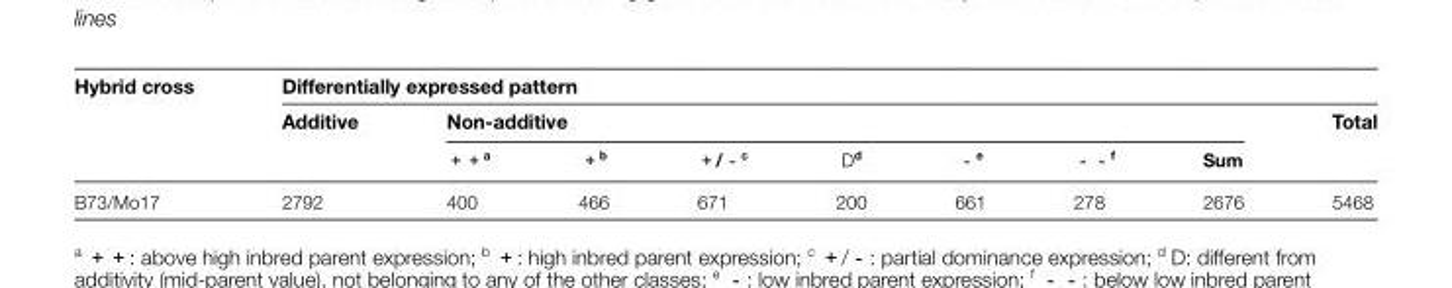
<table><thead><tr><td rowspan="3">Hybrid cross</td><td colspan="8">Differentially expressed pattern</td><td rowspan="3">Total</td></tr><tr><td rowspan="2">Additive</td><td colspan="7">Non-additive</td></tr><tr><td>＋＋<sup>a</sup></td><td>＋<sup>b</sup></td><td>＋/－<sup>c</sup></td><td>D<sup>d</sup></td><td>－<sup>e</sup></td><td>－－<sup>f</sup></td><td>Sum</td></tr></thead><tbody><tr><td>B73/Mo17</td><td>2792</td><td>400</td><td>466</td><td>671</td><td>200</td><td>661</td><td>278</td><td>2676</td><td>5468</td></tr></tbody></table>